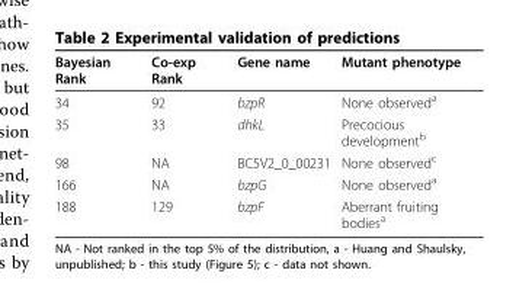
<table><thead><tr><td>Bayesian Rank</td><td>Co-exp Rank</td><td>Gene name</td><td>Mutant phenotype</td></tr></thead><tbody><tr><td>34</td><td>92</td><td>bzpR</td><td>None observed<sup>a</sup></td></tr><tr><td>35</td><td>33</td><td>dhkL</td><td>Precocious development<sup>b</sup></td></tr><tr><td>98</td><td>NA</td><td>BC5V2_0_00231</td><td>None observed<sup>c</sup></td></tr><tr><td>166</td><td>NA</td><td>bzpG</td><td>None observed<sup>a</sup></td></tr><tr><td>188</td><td>129</td><td>bzpF</td><td>Aberrant fruiting bodies<sup>a</sup></td></tr></tbody></table>